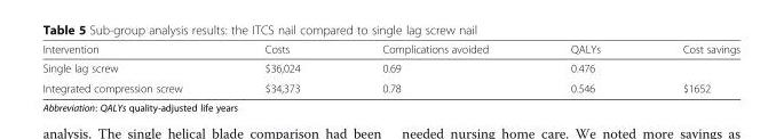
<table><thead><tr><td>Intervention</td><td>Costs</td><td>Complications avoided</td><td>QALYs</td><td>Cost savings</td></tr></thead><tbody><tr><td>Single lag screw</td><td>$36,024</td><td>0.69</td><td>0.476</td><td></td></tr><tr><td>Integrated compression screw</td><td>$34,373</td><td>0.78</td><td>0.546</td><td>$1652</td></tr></tbody></table>